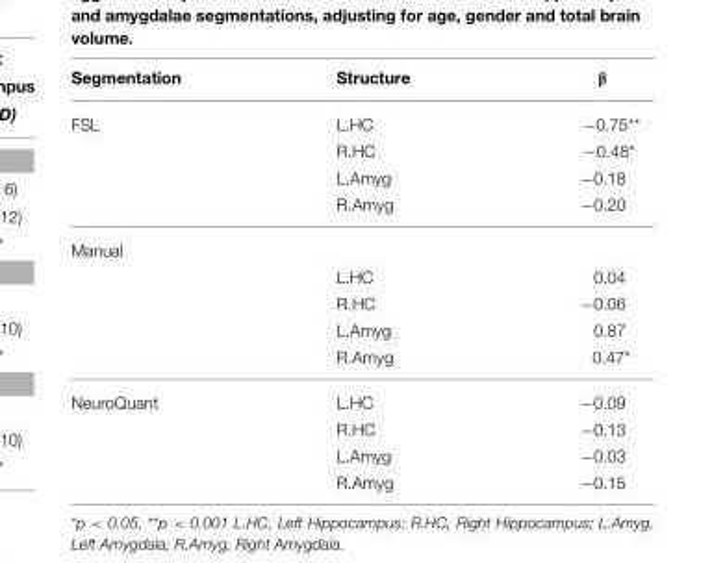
<table><thead><tr><td>Segmentation</td><td>Structure</td><td>β</td></tr></thead><tbody><tr><td rowspan="4">FSL</td><td>L.HC</td><td>−0.75**</td></tr><tr><td>R.HC</td><td>−0.48*</td></tr><tr><td>L.Amyg</td><td>−0.18</td></tr><tr><td>R.Amyg</td><td>−0.20</td></tr><tr><td colspan="3">Manual</td></tr><tr><td></td><td>L.HC</td><td>0.04</td></tr><tr><td></td><td>R.HC</td><td>−0.06</td></tr><tr><td></td><td>L.Amyg</td><td>0.87</td></tr><tr><td></td><td>R.Amyg</td><td>0.47*</td></tr><tr><td rowspan="4">NeuroQuant</td><td>L.HC</td><td>−0.09</td></tr><tr><td>R.HC</td><td>−0.13</td></tr><tr><td>L.Amyg</td><td>−0.03</td></tr><tr><td>R.Amyg</td><td>−0.15</td></tr></tbody></table>